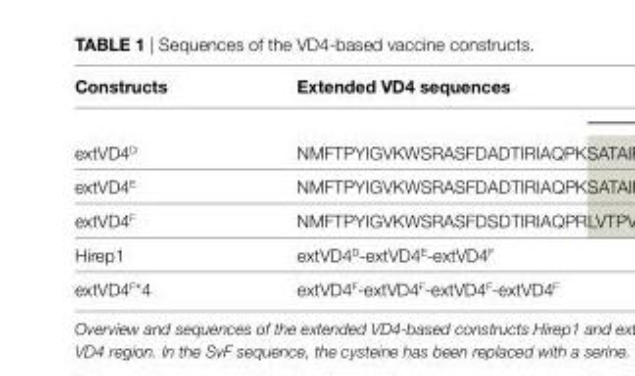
<table><thead><tr><td>constructs</td><td>extended VD4 sequences</td></tr></thead><tbody><tr><td colspan="2">extVD4<sup>D</sup></td></tr><tr><td colspan="2">extVD4<sup>E</sup></td></tr><tr><td colspan="2">extVD4<sup>F</sup></td></tr><tr><td>Hirep1</td><td>extVD4<sup>D</sup>-extVD4<sup>E</sup>-extVD4<sup>F</sup></td></tr><tr><td>extVD4<sup>F</sup>*4</td><td>extVD4<sup>F</sup>-extVD4<sup>F</sup>-extVD4<sup>F</sup>-extVD4<sup>F</sup></td></tr></tbody></table>